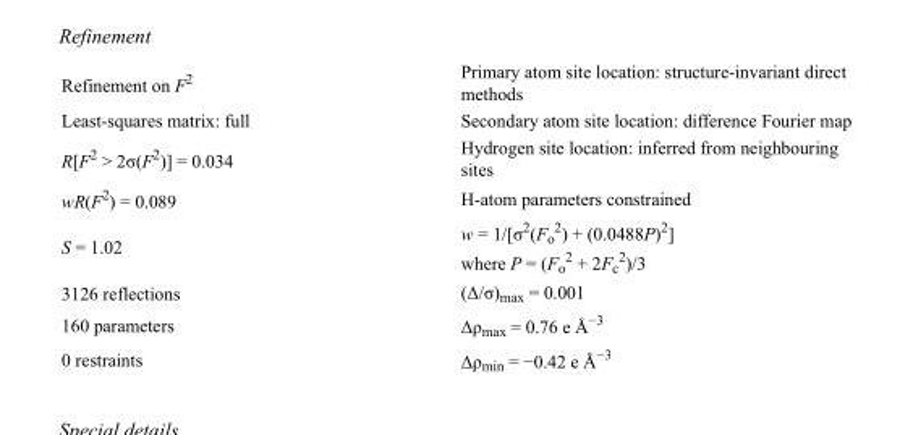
<table><tbody><tr><td>Refinement on F<sup>2</sup></td><td>Primary atom site location: structure-invariant direct methods</td></tr><tr><td>Least-squares matrix: full</td><td>Secondary atom site location: difference Fourier map</td></tr><tr><td>R[F<sup>2</sup> &gt; 2σ(F<sup>2</sup>)] = 0.034</td><td>Hydrogen site location: inferred from neighbouring sites</td></tr><tr><td>wR(F<sup>2</sup>) = 0.089</td><td>H-atom parameters constrained</td></tr><tr><td>S = 1.02</td><td>w = 1/[σ<sup>2</sup>(F<sub>o</sub> <sup>2</sup>) + (0.0488P)<sup>2</sup>] where P = (F<sub>o</sub> <sup>2</sup> + 2F<sub>c</sub> <sup>2</sup>)/3</td></tr><tr><td>3126 reflections</td><td>(Δ/σ)<sub>max</sub> = 0.001</td></tr><tr><td>160 parameters</td><td>Δρ<sub>max</sub> = 0.76 e Å<sup>−3</sup></td></tr><tr><td>0 restraints</td><td>Δρ<sub>min</sub> = −0.42 e Å<sup>−3</sup></td></tr></tbody></table>